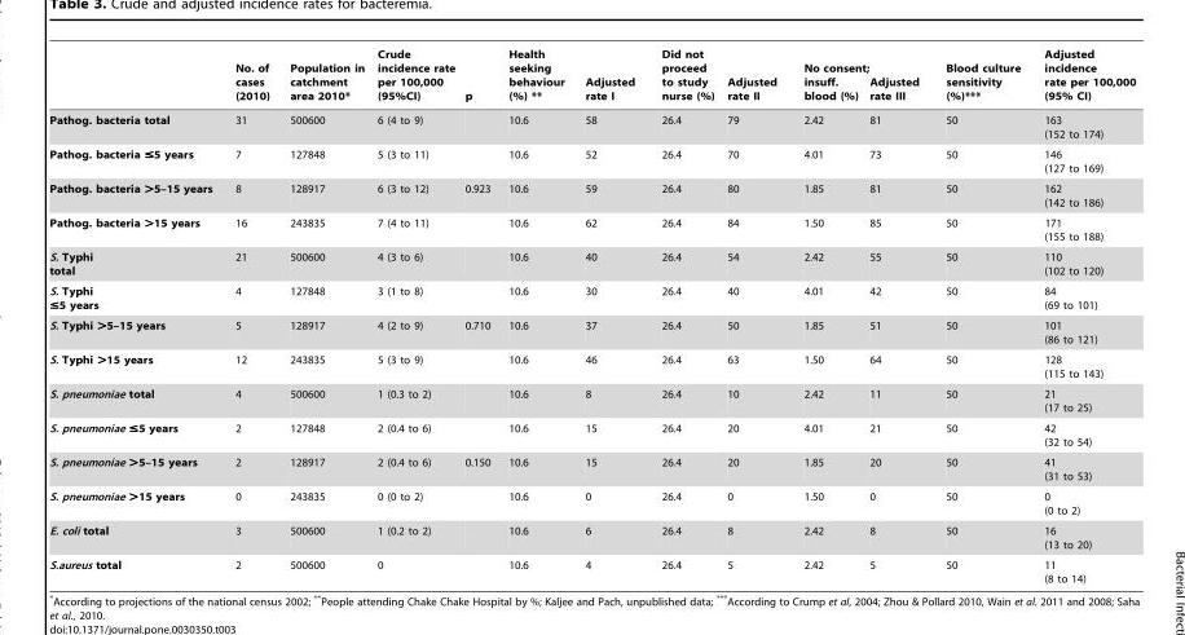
<table><thead><tr><td></td><td>No. of cases (2010)</td><td>Population in catchment area 2010*</td><td>Crude incidence rate per 100,000 (95%CI)</td><td>p</td><td>Health seeking behaviour (%) **</td><td>Adjusted rate I</td><td>Did not proceed to study nurse (%)</td><td>Adjusted rate II</td><td>No consent; insuff. blood (%)</td><td>Adjusted rate III</td><td>Blood culture sensitivity (%)***</td><td>Adjusted incidence rate per 100,000 (95% CI)</td></tr></thead><tbody><tr><td>Pathog. bacteria total</td><td>31</td><td>500600</td><td>6 (4 to 9)</td><td></td><td>10.6</td><td>58</td><td>26.4</td><td>79</td><td>2.42</td><td>81</td><td>50</td><td>163 (152 to 174)</td></tr><tr><td>Pathog. bacteria ≤5 years</td><td>7</td><td>127848</td><td>5 (3 to 11)</td><td></td><td>10.6</td><td>52</td><td>26.4</td><td>70</td><td>4.01</td><td>73</td><td>50</td><td>146 (127 to 169)</td></tr><tr><td>Pathog. bacteria &gt;5–15 years</td><td>8</td><td>128917</td><td>6 (3 to 12)</td><td>0.923</td><td>10.6</td><td>59</td><td>26.4</td><td>80</td><td>1.85</td><td>81</td><td>50</td><td>162 (142 to 186)</td></tr><tr><td>Pathog. bacteria &gt;15 years</td><td>16</td><td>243835</td><td>7 (4 to 11)</td><td></td><td>10.6</td><td>62</td><td>26.4</td><td>84</td><td>1.50</td><td>85</td><td>50</td><td>171 (155 to 188)</td></tr><tr><td>S. Typhi total</td><td>21</td><td>500600</td><td>4 (3 to 6)</td><td></td><td>10.6</td><td>40</td><td>26.4</td><td>54</td><td>2.42</td><td>55</td><td>50</td><td>110 (102 to 120)</td></tr><tr><td>S. Typhi ≤5 years</td><td>4</td><td>127848</td><td>3 (1 to 8)</td><td></td><td>10.6</td><td>30</td><td>26.4</td><td>40</td><td>4.01</td><td>42</td><td>50</td><td>84 (69 to 101)</td></tr><tr><td>S. Typhi &gt;5–15 years</td><td>5</td><td>128917</td><td>4 (2 to 9)</td><td>0.710</td><td>10.6</td><td>37</td><td>26.4</td><td>50</td><td>1.85</td><td>51</td><td>50</td><td>101 (86 to 121)</td></tr><tr><td>S. Typhi &gt;15 years</td><td>12</td><td>243835</td><td>5 (3 to 9)</td><td></td><td>10.6</td><td>46</td><td>26.4</td><td>63</td><td>1.50</td><td>64</td><td>50</td><td>128 (115 to 143)</td></tr><tr><td>S. pneumoniae total</td><td>4</td><td>500600</td><td>1 (0.3 to 2)</td><td></td><td>10.6</td><td>8</td><td>26.4</td><td>10</td><td>2.42</td><td>11</td><td>50</td><td>21 (17 to 25)</td></tr><tr><td>S. pneumoniae ≤5 years</td><td>2</td><td>127848</td><td>2 (0.4 to 6)</td><td></td><td>10.6</td><td>15</td><td>26.4</td><td>20</td><td>4.01</td><td>21</td><td>50</td><td>42 (32 to 54)</td></tr><tr><td>S. pneumoniae &gt;5–15 years</td><td>2</td><td>128917</td><td>2 (0.4 to 6)</td><td>0.150</td><td>10.6</td><td>15</td><td>26.4</td><td>20</td><td>1.85</td><td>20</td><td>50</td><td>41 (31 to 53)</td></tr><tr><td>S. pneumoniae &gt;15 years</td><td>0</td><td>243835</td><td>0 (0 to 2)</td><td></td><td>10.6</td><td>0</td><td>26.4</td><td>0</td><td>1.50</td><td>0</td><td>50</td><td>0 (0 to 2)</td></tr><tr><td>E. coli total</td><td>3</td><td>500600</td><td>1 (0.2 to 2)</td><td></td><td>10.6</td><td>6</td><td>26.4</td><td>8</td><td>2.42</td><td>8</td><td>50</td><td>16 (13 to 20)</td></tr><tr><td>S.aureus total</td><td>2</td><td>500600</td><td>0</td><td></td><td>10.6</td><td>4</td><td>26.4</td><td>5</td><td>2.42</td><td>5</td><td>50</td><td>11 (8 to 14)</td></tr></tbody></table>